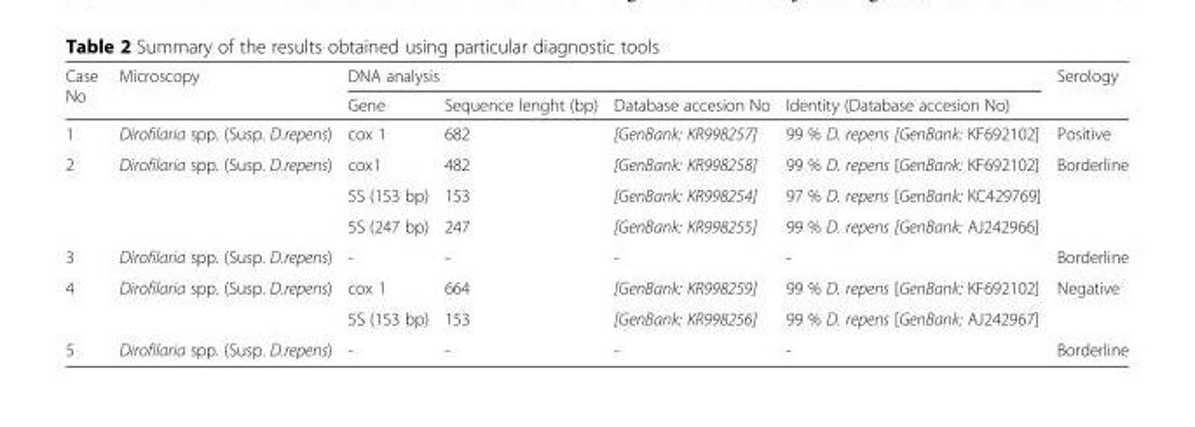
<table><thead><tr><td rowspan="2">Case No</td><td rowspan="2">Microscopy</td><td colspan="4">DNA analysis</td><td rowspan="2">Serology</td></tr><tr><td>Gene</td><td>Sequence lenght (bp)</td><td>Database accesion No</td><td>Identity (Database accesion No)</td></tr></thead><tbody><tr><td>1</td><td>Dirofilaria spp. (Susp. D.repens)</td><td>cox 1</td><td>682</td><td>[GenBank: KR998257]</td><td>99 % D. repens [GenBank: KF692102]</td><td>Positive</td></tr><tr><td rowspan="3">2</td><td rowspan="3">Dirofilaria spp. (Susp. D.repens)</td><td>cox1</td><td>482</td><td>[GenBank: KR998258]</td><td>99 % D. repens [GenBank: KF692102]</td><td rowspan="3">Borderline</td></tr><tr><td>5S (153 bp)</td><td>153</td><td>[GenBank: KR998254]</td><td>97 % D. repens [GenBank: KC429769]</td></tr><tr><td>5S (247 bp)</td><td>247</td><td>[GenBank: KR998255]</td><td>99 % D. repens [GenBank: AJ242966]</td></tr><tr><td>3</td><td>Dirofilaria spp. (Susp. D.repens)</td><td>-</td><td>-</td><td>-</td><td>-</td><td>Borderline</td></tr><tr><td rowspan="2">4</td><td rowspan="2">Dirofilaria spp. (Susp. D.repens)</td><td>cox 1</td><td>664</td><td>[GenBank: KR998259]</td><td>99 % D. repens [GenBank: KF692102]</td><td rowspan="2">Negative</td></tr><tr><td>5S (153 bp)</td><td>153</td><td>[GenBank: KR998256]</td><td>99 % D. repens [GenBank: AJ242967]</td></tr><tr><td>5</td><td>Dirofilaria spp. (Susp. D.repens)</td><td>-</td><td>-</td><td>-</td><td>-</td><td>Borderline</td></tr></tbody></table>